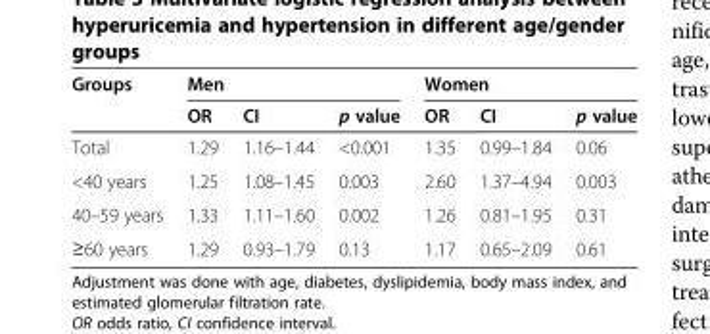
<table><thead><tr><td rowspan="2">Groups</td><td colspan="3">Men</td><td colspan="3">Women</td></tr><tr><td>OR</td><td>CI</td><td>p value</td><td>OR</td><td>CI</td><td>p value</td></tr></thead><tbody><tr><td>Total</td><td>1.29</td><td>1.16–1.44</td><td>&lt;0.001</td><td>1.35</td><td>0.99–1.84</td><td>0.06</td></tr><tr><td>&lt;40 years</td><td>1.25</td><td>1.08–1.45</td><td>0.003</td><td>2.60</td><td>1.37–4.94</td><td>0.003</td></tr><tr><td>40–59 years</td><td>1.33</td><td>1.11–1.60</td><td>0.002</td><td>1.26</td><td>0.81–1.95</td><td>0.31</td></tr><tr><td>≥60 years</td><td>1.29</td><td>0.93–1.79</td><td>0.13</td><td>1.17</td><td>0.65–2.09</td><td>0.61</td></tr></tbody></table>